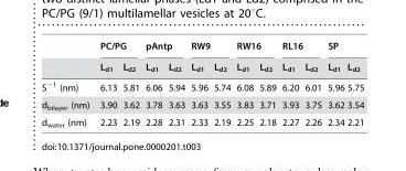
<table><thead><tr><td rowspan="2"></td><td colspan="2">PC/PG</td><td colspan="2">pAntp</td><td colspan="2">RW9</td><td colspan="2">RW16</td><td colspan="2">RL16</td><td colspan="2">SP</td></tr><tr><td>L<sub>d1</sub></td><td>L<sub>d2</sub></td><td>L<sub>d1</sub></td><td>L<sub>d2</sub></td><td>L<sub>d1</sub></td><td>L<sub>d2</sub></td><td>L<sub>d1</sub></td><td>L<sub>d2</sub></td><td>L<sub>d1</sub></td><td>L<sub>d2</sub></td><td>L<sub>d1</sub></td><td>L<sub>d2</sub></td></tr></thead><tbody><tr><td>S<sup>−1</sup> (nm)</td><td>6.13</td><td>5.81</td><td>6.06</td><td>5.94</td><td>5.96</td><td>5.74</td><td>6.08</td><td>5.89</td><td>6.20</td><td>6.01</td><td>5.96</td><td>5.75</td></tr><tr><td>d<sub>bilayer</sub> (nm)</td><td>3.90</td><td>3.62</td><td>3.78</td><td>3.63</td><td>3.63</td><td>3.55</td><td>3.83</td><td>3.71</td><td>3.93</td><td>3.75</td><td>3.62</td><td>3.54</td></tr><tr><td>d<sub>water</sub> (nm)</td><td>2.23</td><td>2.19</td><td>2.28</td><td>2.31</td><td>2.33</td><td>2.19</td><td>2.25</td><td>2.18</td><td>2.27</td><td>2.26</td><td>2.34</td><td>2.21</td></tr></tbody></table>